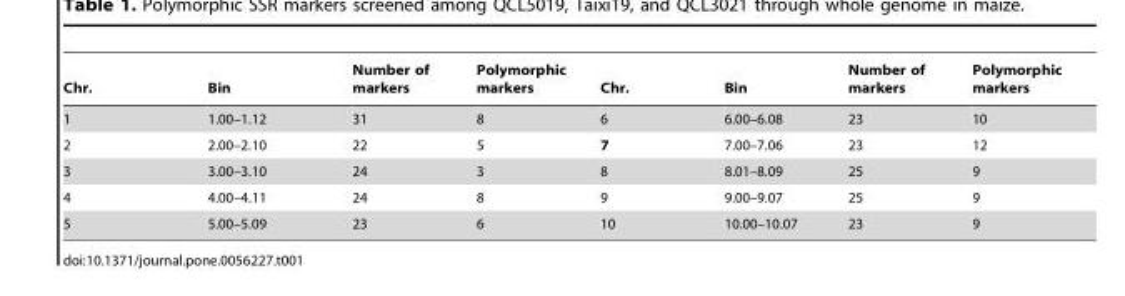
<table><thead><tr><td>Chr.</td><td>Bin</td><td>Number of markers</td><td>Polymorphic markers</td><td>Chr.</td><td>Bin</td><td>Number of markers</td><td>Polymorphic markers</td></tr></thead><tbody><tr><td>1</td><td>1.00–1.12</td><td>31</td><td>8</td><td>6</td><td>6.00–6.08</td><td>23</td><td>10</td></tr><tr><td>2</td><td>2.00–2.10</td><td>22</td><td>5</td><td>7</td><td>7.00–7.06</td><td>23</td><td>12</td></tr><tr><td>3</td><td>3.00–3.10</td><td>24</td><td>3</td><td>8</td><td>8.01–8.09</td><td>25</td><td>9</td></tr><tr><td>4</td><td>4.00–4.11</td><td>24</td><td>8</td><td>9</td><td>9.00–9.07</td><td>25</td><td>9</td></tr><tr><td>5</td><td>5.00–5.09</td><td>23</td><td>6</td><td>10</td><td>10.00–10.07</td><td>23</td><td>9</td></tr></tbody></table>